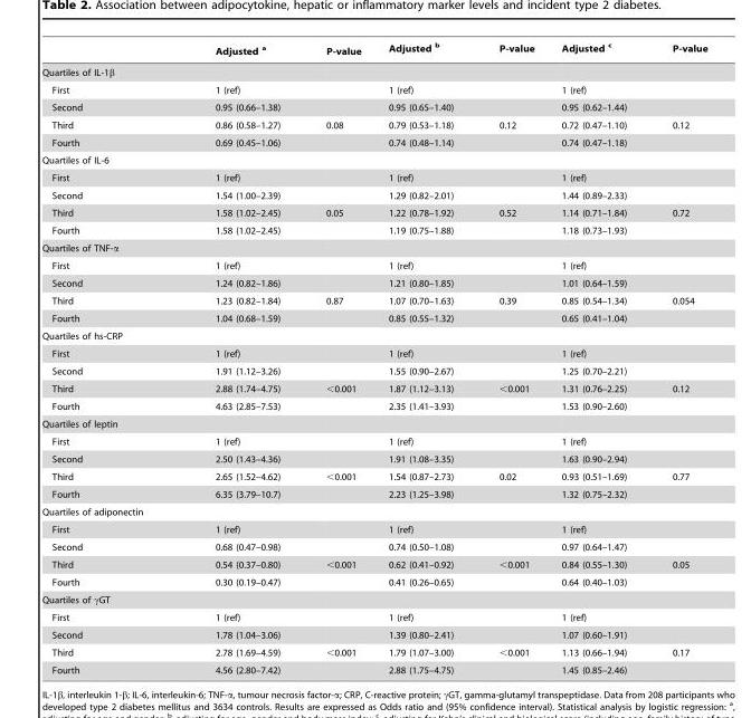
<table><thead><tr><td></td><td>Adjusted <sup>a</sup></td><td>P-value</td><td>Adjusted <sup>b</sup></td><td>P-value</td><td>Adjusted <sup>c</sup></td><td>P-value</td></tr></thead><tbody><tr><td colspan="7">Quartiles of IL-1β</td></tr><tr><td>First</td><td>1 (ref)</td><td></td><td>1 (ref)</td><td></td><td>1 (ref)</td><td></td></tr><tr><td>Second</td><td>0.95 (0.66–1.38)</td><td></td><td>0.95 (0.65–1.40)</td><td></td><td>0.95 (0.62–1.44)</td><td></td></tr><tr><td>Third</td><td>0.86 (0.58–1.27)</td><td>0.08</td><td>0.79 (0.53–1.18)</td><td>0.12</td><td>0.72 (0.47–1.10)</td><td>0.12</td></tr><tr><td>Fourth</td><td>0.69 (0.45–1.06)</td><td></td><td>0.74 (0.48–1.14)</td><td></td><td>0.74 (0.47–1.18)</td><td></td></tr><tr><td colspan="7">Quartiles of IL-6</td></tr><tr><td>First</td><td>1 (ref)</td><td></td><td>1 (ref)</td><td></td><td>1 (ref)</td><td></td></tr><tr><td>Second</td><td>1.54 (1.00–2.39)</td><td></td><td>1.29 (0.82–2.01)</td><td></td><td>1.44 (0.89–2.33)</td><td></td></tr><tr><td>Third</td><td>1.58 (1.02–2.45)</td><td>0.05</td><td>1.22 (0.78–1.92)</td><td>0.52</td><td>1.14 (0.71–1.84)</td><td>0.72</td></tr><tr><td>Fourth</td><td>1.58 (1.02–2.45)</td><td></td><td>1.19 (0.75–1.88)</td><td></td><td>1.18 (0.73–1.93)</td><td></td></tr><tr><td colspan="7">Quartiles of TNF-α</td></tr><tr><td>First</td><td>1 (ref)</td><td></td><td>1 (ref)</td><td></td><td>1 (ref)</td><td></td></tr><tr><td>Second</td><td>1.24 (0.82–1.86)</td><td></td><td>1.21 (0.80–1.85)</td><td></td><td>1.01 (0.64–1.59)</td><td></td></tr><tr><td>Third</td><td>1.23 (0.82–1.84)</td><td>0.87</td><td>1.07 (0.70–1.63)</td><td>0.39</td><td>0.85 (0.54–1.34)</td><td>0.054</td></tr><tr><td>Fourth</td><td>1.04 (0.68–1.59)</td><td></td><td>0.85 (0.55–1.32)</td><td></td><td>0.65 (0.41–1.04)</td><td></td></tr><tr><td colspan="7">Quartiles of hs-CRP</td></tr><tr><td>First</td><td>1 (ref)</td><td></td><td>1 (ref)</td><td></td><td>1 (ref)</td><td></td></tr><tr><td>Second</td><td>1.91 (1.12–3.26)</td><td></td><td>1.55 (0.90–2.67)</td><td></td><td>1.25 (0.70–2.21)</td><td></td></tr><tr><td>Third</td><td>2.88 (1.74–4.75)</td><td>&lt;0.001</td><td>1.87 (1.12–3.13)</td><td>&lt;0.001</td><td>1.31 (0.76–2.25)</td><td>0.12</td></tr><tr><td>Fourth</td><td>4.63 (2.85–7.53)</td><td></td><td>2.35 (1.41–3.93)</td><td></td><td>1.53 (0.90–2.60)</td><td></td></tr><tr><td colspan="7">Quartiles of leptin</td></tr><tr><td>First</td><td>1 (ref)</td><td></td><td>1 (ref)</td><td></td><td>1 (ref)</td><td></td></tr><tr><td>Second</td><td>2.50 (1.43–4.36)</td><td></td><td>1.91 (1.08–3.35)</td><td></td><td>1.63 (0.90–2.94)</td><td></td></tr><tr><td>Third</td><td>2.65 (1.52–4.62)</td><td>&lt;0.001</td><td>1.54 (0.87–2.73)</td><td>0.02</td><td>0.93 (0.51–1.69)</td><td>0.77</td></tr><tr><td>Fourth</td><td>6.35 (3.79–10.7)</td><td></td><td>2.23 (1.25–3.98)</td><td></td><td>1.32 (0.75–2.32)</td><td></td></tr><tr><td colspan="7">Quartiles of adiponectin</td></tr><tr><td>First</td><td>1 (ref)</td><td></td><td>1 (ref)</td><td></td><td>1 (ref)</td><td></td></tr><tr><td>Second</td><td>0.68 (0.47–0.98)</td><td></td><td>0.74 (0.50–1.08)</td><td></td><td>0.97 (0.64–1.47)</td><td></td></tr><tr><td>Third</td><td>0.54 (0.37–0.80)</td><td>&lt;0.001</td><td>0.62 (0.41–0.92)</td><td>&lt;0.001</td><td>0.84 (0.55–1.30)</td><td>0.05</td></tr><tr><td>Fourth</td><td>0.30 (0.19–0.47)</td><td></td><td>0.41 (0.26–0.65)</td><td></td><td>0.64 (0.40–1.03)</td><td></td></tr><tr><td colspan="7">Quartiles of γGT</td></tr><tr><td>First</td><td>1 (ref)</td><td></td><td>1 (ref)</td><td></td><td>1 (ref)</td><td></td></tr><tr><td>Second</td><td>1.78 (1.04–3.06)</td><td></td><td>1.39 (0.80–2.41)</td><td></td><td>1.07 (0.60–1.91)</td><td></td></tr><tr><td>Third</td><td>2.78 (1.69–4.59)</td><td>&lt;0.001</td><td>1.79 (1.07–3.00)</td><td>&lt;0.001</td><td>1.13 (0.66–1.94)</td><td>0.17</td></tr><tr><td>Fourth</td><td>4.56 (2.80–7.42)</td><td></td><td>2.88 (1.75–4.75)</td><td></td><td>1.45 (0.85–2.46)</td><td></td></tr></tbody></table>